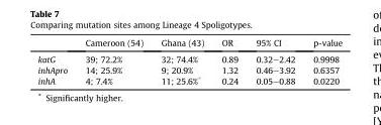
<table><thead><tr><td></td><td>Cameroon (54)</td><td>Ghana (43)</td><td>OR</td><td>95% CI</td><td>p-value</td></tr></thead><tbody><tr><td>katG</td><td>39; 72.2%</td><td>32; 74.4%</td><td>0.89</td><td>0.32–2.42</td><td>0.9998</td></tr><tr><td>inhApro</td><td>14; 25.9%</td><td>9; 20.9%</td><td>1.32</td><td>0.46–3.92</td><td>0.6357</td></tr><tr><td>inhA</td><td>4; 7.4%</td><td>11; 25.6%*</td><td>0.24</td><td>0.05–0.88</td><td>0.0220</td></tr></tbody></table>